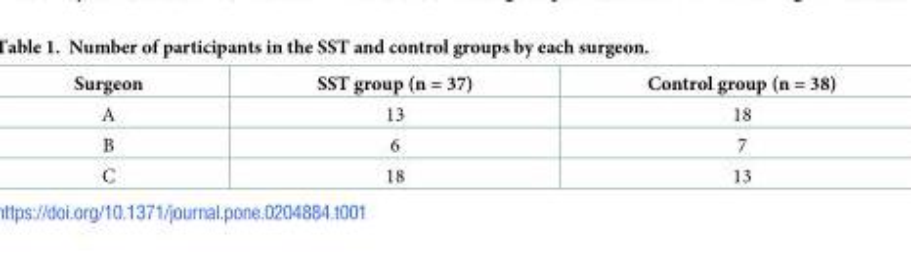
<table><thead><tr><td>Surgeon</td><td>SST group (n = 37)</td><td>Control group (n = 38)</td></tr></thead><tbody><tr><td>A</td><td>13</td><td>18</td></tr><tr><td>B</td><td>6</td><td>7</td></tr><tr><td>C</td><td>18</td><td>13</td></tr></tbody></table>